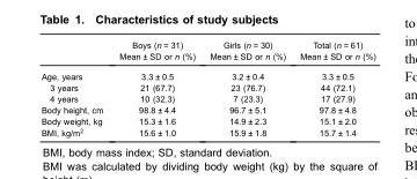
<table><thead><tr><td rowspan="2"></td><td rowspan="2">Boys (n = 31) Mean ± SD or n (%)</td><td rowspan="2">Girls (n = 30) Mean ± SD or n (%)</td><td rowspan="2">Total (n = 61) Mean ± SD or n (%)</td></tr><tr></tr></thead><tbody><tr><td>Age, years</td><td>3.3 ± 0.5</td><td>3.2 ± 0.4</td><td>3.3 ± 0.5</td></tr><tr><td>3 years</td><td>21 (67.7)</td><td>23 (76.7)</td><td>44 (72.1)</td></tr><tr><td>4 years</td><td>10 (32.3)</td><td>7 (23.3)</td><td>17 (27.9)</td></tr><tr><td>Body height, cm</td><td>98.8 ± 4.4</td><td>96.7 ± 5.1</td><td>97.8 ± 4.8</td></tr><tr><td>Body weight, kg</td><td>15.3 ± 1.6</td><td>14.9 ± 2.3</td><td>15.1 ± 2.0</td></tr><tr><td>BMI, kg/m<sup>2</sup></td><td>15.6 ± 1.0</td><td>15.9 ± 1.8</td><td>15.7 ± 1.4</td></tr></tbody></table>